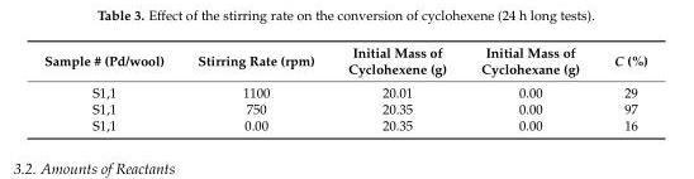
<table><thead><tr><td>Sample # (Pd/wool)</td><td>Stirring Rate (rpm)</td><td>Initial Mass of Cyclohexene (g)</td><td>Initial Mass of Cyclohexane (g)</td><td>C (%)</td></tr></thead><tbody><tr><td>S1,1</td><td>1100</td><td>20.01</td><td>0.00</td><td>29</td></tr><tr><td>S1,1</td><td>750</td><td>20.35</td><td>0.00</td><td>97</td></tr><tr><td>S1,1</td><td>0.00</td><td>20.35</td><td>0.00</td><td>16</td></tr></tbody></table>